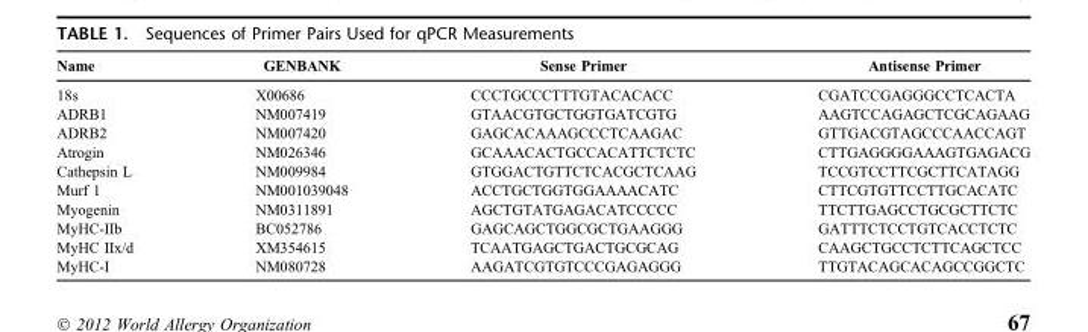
<table><thead><tr><td>Name</td><td>GENBANK</td><td>Sense Primer</td><td>Antisense Primer</td></tr></thead><tbody><tr><td>18s</td><td>X00686</td><td>CCCTGCCCTTTGTACACACC</td><td>CGATCCGAGGGCCTCACTA</td></tr><tr><td>ADRB1</td><td>NM007419</td><td>GTAACGTGCTGGTGATCGTG</td><td>AAGTCCAGAGCTCGCAGAAG</td></tr><tr><td>ADRB2</td><td>NM007420</td><td>GAGCACAAAGCCCTCAAGAC</td><td>GTTGACGTAGCCCAACCAGT</td></tr><tr><td>Atrogin</td><td>NM026346</td><td>GCAAACACTGCCACATTCTCTC</td><td>CTTGAGGGGAAAGTGAGACG</td></tr><tr><td>Cathepsin L</td><td>NM009984</td><td>GTGGACTGTTCTCACGCTCAAG</td><td>TCCGTCCTTCGCTTCATAGG</td></tr><tr><td>Murf 1</td><td>NM001039048</td><td>ACCTGCTGGTGGAAAACATC</td><td>CTTCGTGTTCCTTGCACATC</td></tr><tr><td>Myogenin</td><td>NM0311891</td><td>AGCTGTATGAGACATCCCCC</td><td>TTCTTGAGCCTGCGCTTCTC</td></tr><tr><td>MyHC-IIb</td><td>BC052786</td><td>GAGCAGCTGGCGCTGAAGGG</td><td>GATTTCTCCTGTCACCTCTC</td></tr><tr><td>MyHC IIx/d</td><td>XM354615</td><td>TCAATGAGCTGACTGCGCAG</td><td>CAAGCTGCCTCTTCAGCTCC</td></tr><tr><td>MyHC-I</td><td>NM080728</td><td>AAGATCGTGTCCCGAGAGGG</td><td>TTGTACAGCACAGCCGGCTC</td></tr></tbody></table>